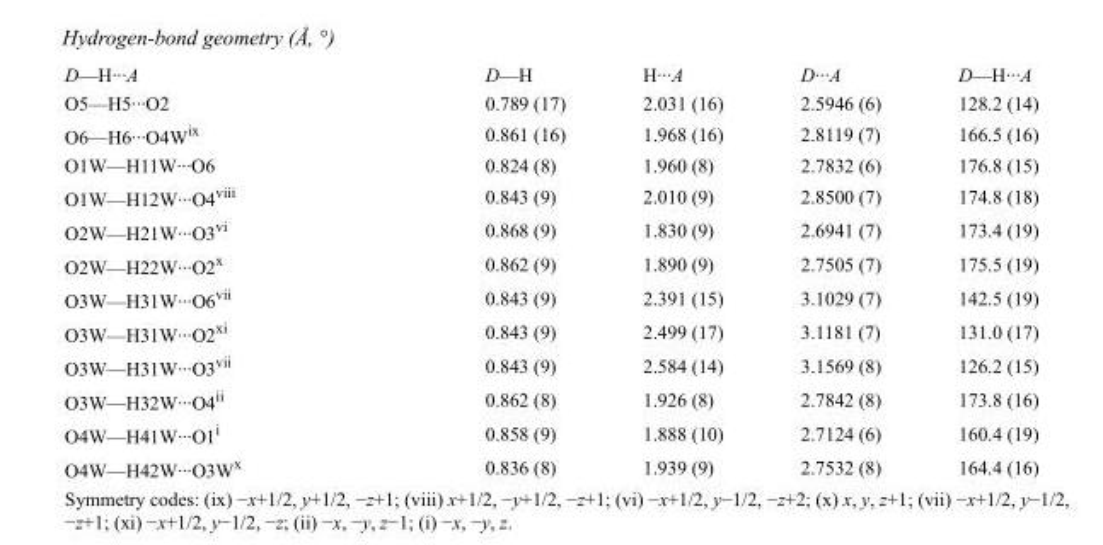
<table><tbody><tr><td>D—H···A</td><td>D—H</td><td>H···A</td><td>D···A</td><td>D—H···A</td></tr><tr><td>O5—H5···O2</td><td>0.789 (17)</td><td>2.031 (16)</td><td>2.5946 (6)</td><td>128.2 (14)</td></tr><tr><td>O6—H6···O4W<sup>ix</sup></td><td>0.861 (16)</td><td>1.968 (16)</td><td>2.8119 (7)</td><td>166.5 (16)</td></tr><tr><td>O1W—H11W···O6</td><td>0.824 (8)</td><td>1.960 (8)</td><td>2.7832 (6)</td><td>176.8 (15)</td></tr><tr><td>O1W—H12W···O4<sup>viii</sup></td><td>0.843 (9)</td><td>2.010 (9)</td><td>2.8500 (7)</td><td>174.8 (18)</td></tr><tr><td>O2W—H21W···O3<sup>vi</sup></td><td>0.868 (9)</td><td>1.830 (9)</td><td>2.6941 (7)</td><td>173.4 (19)</td></tr><tr><td>O2W—H22W···O2<sup>x</sup></td><td>0.862 (9)</td><td>1.890 (9)</td><td>2.7505 (7)</td><td>175.5 (19)</td></tr><tr><td>O3W—H31W···O6<sup>vii</sup></td><td>0.843 (9)</td><td>2.391 (15)</td><td>3.1029 (7)</td><td>142.5 (19)</td></tr><tr><td>O3W—H31W···O2<sup>xi</sup></td><td>0.843 (9)</td><td>2.499 (17)</td><td>3.1181 (7)</td><td>131.0 (17)</td></tr><tr><td>O3W—H31W···O3<sup>vii</sup></td><td>0.843 (9)</td><td>2.584 (14)</td><td>3.1569 (8)</td><td>126.2 (15)</td></tr><tr><td>O3W—H32W···O4<sup>ii</sup></td><td>0.862 (8)</td><td>1.926 (8)</td><td>2.7842 (8)</td><td>173.8 (16)</td></tr><tr><td>O4W—H41W···O1<sup>i</sup></td><td>0.858 (9)</td><td>1.888 (10)</td><td>2.7124 (6)</td><td>160.4 (19)</td></tr><tr><td>O4W—H42W···O3W<sup>x</sup></td><td>0.836 (8)</td><td>1.939 (9)</td><td>2.7532 (8)</td><td>164.4 (16)</td></tr></tbody></table>